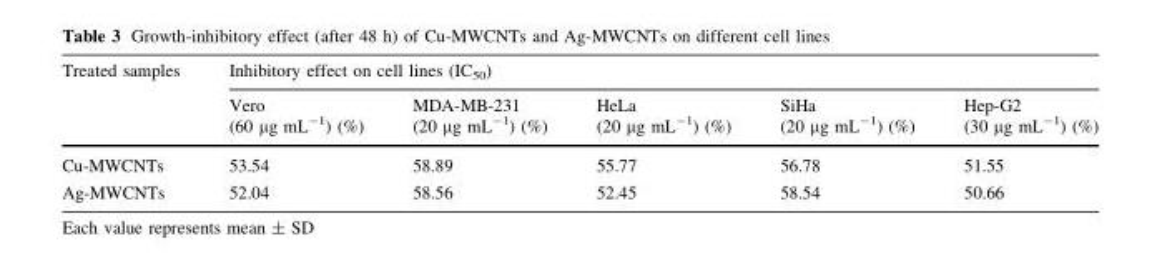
<table><thead><tr><td rowspan="2">Treated samples</td><td colspan="5">Inhibitory effect on cell lines (IC<sub>50</sub>)</td></tr><tr><td>Vero (60 µg mL<sup>-1</sup>) (%)</td><td>MDA-MB-231 (20 µg mL<sup>-1</sup>) (%)</td><td>HeLa (20 µg mL<sup>-1</sup>) (%)</td><td>SiHa (20 µg mL<sup>-1</sup>) (%)</td><td>Hep-G2 (30 µg mL<sup>-1</sup>) (%)</td></tr></thead><tbody><tr><td>Cu-MWCNTs</td><td>53.54</td><td>58.89</td><td>55.77</td><td>56.78</td><td>51.55</td></tr><tr><td>Ag-MWCNTs</td><td>52.04</td><td>58.56</td><td>52.45</td><td>58.54</td><td>50.66</td></tr></tbody></table>